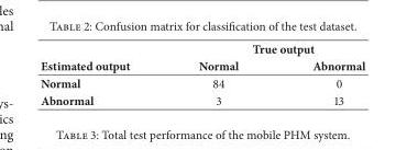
<table><thead><tr><td rowspan="2">Estimated output</td><td colspan="2">True output</td></tr><tr><td>Normal</td><td>Abnormal</td></tr></thead><tbody><tr><td>Normal</td><td>84</td><td>0</td></tr><tr><td>Abnormal</td><td>3</td><td>13</td></tr></tbody></table>